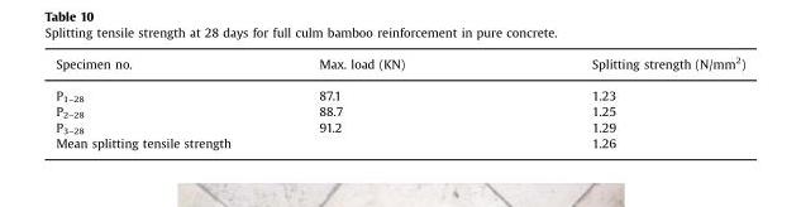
<table><thead><tr><td>Specimen no.</td><td>Max. load (KN)</td><td>Splitting strength (N/mm<sup>2</sup>)</td></tr></thead><tbody><tr><td>P<sub>1–28</sub></td><td>87.1</td><td>1.23</td></tr><tr><td>P<sub>2–28</sub></td><td>88.7</td><td>1.25</td></tr><tr><td>P<sub>3–28</sub></td><td>91.2</td><td>1.29</td></tr><tr><td colspan="2">Mean splitting tensile strength</td><td>1.26</td></tr></tbody></table>